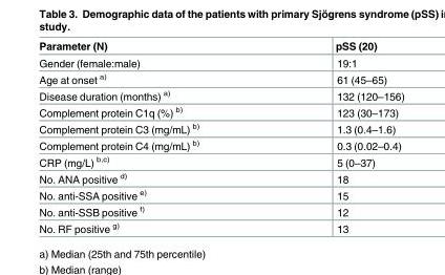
<table><thead><tr><td>Parameter (N)</td><td>pSS (20)</td></tr></thead><tbody><tr><td>Gender (female:male)</td><td>19:1</td></tr><tr><td>Age at onset <sup>a)</sup></td><td>61 (45–65)</td></tr><tr><td>Disease duration (months) <sup>a)</sup></td><td>132 (120–156)</td></tr><tr><td>Complement protein C1q (%) <sup>b)</sup></td><td>123 (30–173)</td></tr><tr><td>Complement protein C3 (mg/mL) <sup>b)</sup></td><td>1.3 (0.4–1.6)</td></tr><tr><td>Complement protein C4 (mg/mL) <sup>b)</sup></td><td>0.3 (0.02–0.4)</td></tr><tr><td>CRP (mg/L) <sup>b,c)</sup></td><td>5 (0–37)</td></tr><tr><td>No. ANA positive <sup>d)</sup></td><td>18</td></tr><tr><td>No. anti-SSA positive <sup>e)</sup></td><td>15</td></tr><tr><td>No. anti-SSB positive <sup>f)</sup></td><td>12</td></tr><tr><td>No. RF positive <sup>g)</sup></td><td>13</td></tr></tbody></table>